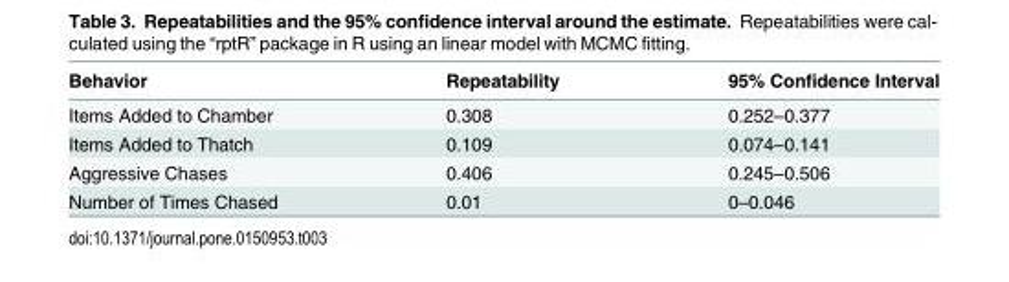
<table><thead><tr><td>Behavior</td><td>Repeatability</td><td>95% Confidence Interval</td></tr></thead><tbody><tr><td>Items Added to Chamber</td><td>0.308</td><td>0.252–0.377</td></tr><tr><td>Items Added to Thatch</td><td>0.109</td><td>0.074–0.141</td></tr><tr><td>Aggressive Chases</td><td>0.406</td><td>0.245–0.506</td></tr><tr><td>Number of Times Chased</td><td>0.01</td><td>0–0.046</td></tr></tbody></table>